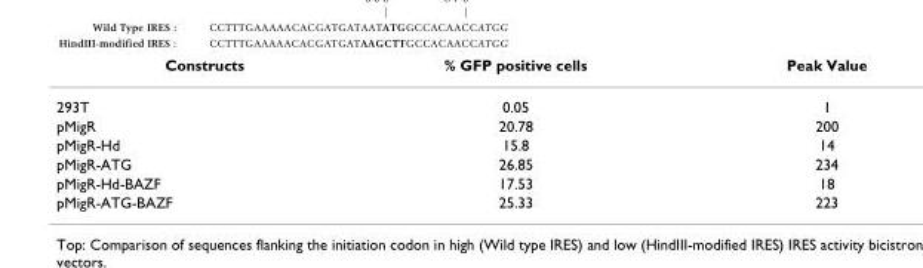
<table><thead><tr><td>Constructs</td><td>% GFP positive cells</td><td>Peak Value</td></tr></thead><tbody><tr><td>293T</td><td>0.05</td><td>1</td></tr><tr><td>pMigR</td><td>20.78</td><td>200</td></tr><tr><td>pMigR-Hd</td><td>15.8</td><td>14</td></tr><tr><td>pMigR-ATG</td><td>26.85</td><td>234</td></tr><tr><td>pMigR-Hd-BAZF</td><td>17.53</td><td>18</td></tr><tr><td>pMigR-ATG-BAZF</td><td>25.33</td><td>223</td></tr></tbody></table>